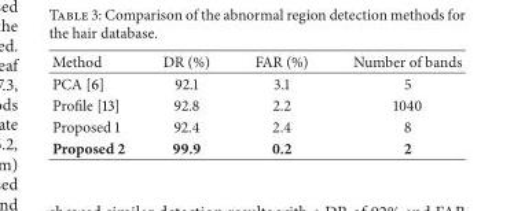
<table><thead><tr><td>Method</td><td>DR (%)</td><td>FAR (%)</td><td>Number of bands</td></tr></thead><tbody><tr><td>PCA [6]</td><td>92.1</td><td>3.1</td><td>5</td></tr><tr><td>Profile [13]</td><td>92.8</td><td>2.2</td><td>1040</td></tr><tr><td>Proposed 1</td><td>92.4</td><td>2.4</td><td>8</td></tr><tr><td>Proposed 2</td><td>99.9</td><td>0.2</td><td>2</td></tr></tbody></table>